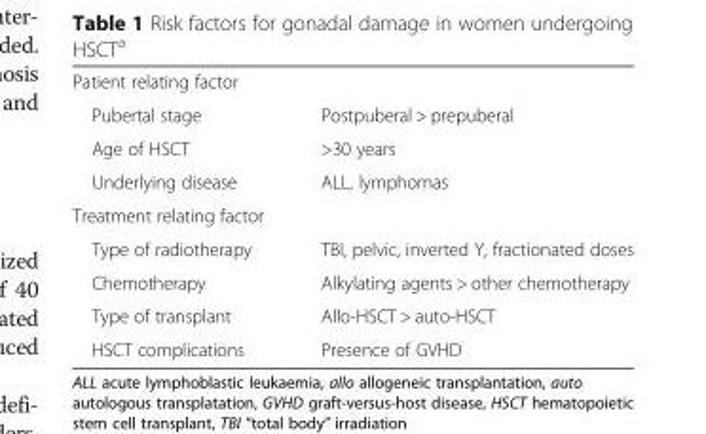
<table><tbody><tr><td colspan="2">Patient relating factor</td></tr><tr><td>Pubertal stage</td><td>Postpuberal &gt; prepuberal</td></tr><tr><td>Age of HSCT</td><td>&gt;30 years</td></tr><tr><td>Underlying disease</td><td>ALL, lymphomas</td></tr><tr><td colspan="2">Treatment relating factor</td></tr><tr><td>Type of radiotherapy</td><td>TBI, pelvic, inverted Y, fractionated doses</td></tr><tr><td>Chemotherapy</td><td>Alkylating agents &gt; other chemotherapy</td></tr><tr><td>Type of transplant</td><td>Allo-HSCT &gt; auto-HSCT</td></tr><tr><td>HSCT complications</td><td>Presence of GVHD</td></tr></tbody></table>